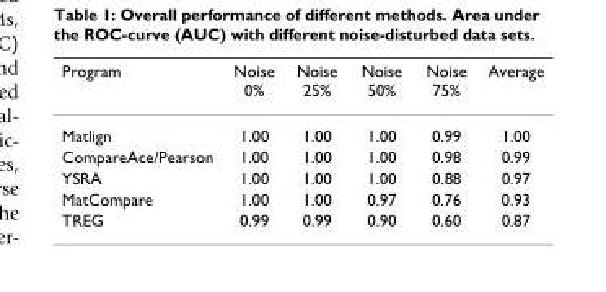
<table><thead><tr><td>Program</td><td>Noise 0%</td><td>Noise 25%</td><td>Noise 50%</td><td>Noise 75%</td><td>Average</td></tr></thead><tbody><tr><td>Matlign</td><td>1.00</td><td>1.00</td><td>1.00</td><td>0.99</td><td>1.00</td></tr><tr><td>CompareAce/Pearson</td><td>1.00</td><td>1.00</td><td>1.00</td><td>0.98</td><td>0.99</td></tr><tr><td>YSRA</td><td>1.00</td><td>1.00</td><td>1.00</td><td>0.88</td><td>0.97</td></tr><tr><td>MatCompare</td><td>1.00</td><td>1.00</td><td>0.97</td><td>0.76</td><td>0.93</td></tr><tr><td>TREG</td><td>0.99</td><td>0.99</td><td>0.90</td><td>0.60</td><td>0.87</td></tr></tbody></table>